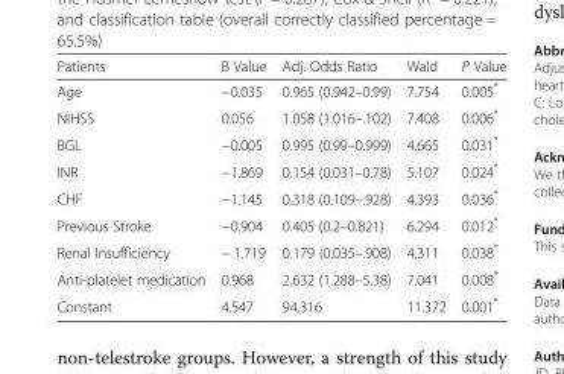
<table><thead><tr><td>Patients</td><td>B Value</td><td>Adj. Odds Ratio</td><td>Wald</td><td>P Value</td></tr></thead><tbody><tr><td>Age</td><td>−0.035</td><td>0.965 (0.942–0.99)</td><td>7.754</td><td>0.005*</td></tr><tr><td>NIHSS</td><td>0.056</td><td>1.058 (1.016–.102)</td><td>7.408</td><td>0.006*</td></tr><tr><td>BGL</td><td>−0.005</td><td>0.995 (0.99–0.999)</td><td>4.665</td><td>0.031*</td></tr><tr><td>INR</td><td>−1.869</td><td>0.154 (0.031–0.78)</td><td>5.107</td><td>0.024*</td></tr><tr><td>CHF</td><td>−1.145</td><td>0.318 (0.109–.928)</td><td>4.393</td><td>0.036*</td></tr><tr><td>Previous Stroke</td><td>−0.904</td><td>0.405 (0.2–0.821)</td><td>6.294</td><td>0.012*</td></tr><tr><td>Renal Insufficiency</td><td>− 1.719</td><td>0.179 (0.035–.908)</td><td>4.311</td><td>0.038*</td></tr><tr><td>Anti-platelet medication</td><td>0.968</td><td>2.632 (1.288–5.38)</td><td>7.041</td><td>0.008*</td></tr><tr><td>Constant</td><td>4.547</td><td>94.316</td><td>11.372</td><td>0.001*</td></tr></tbody></table>